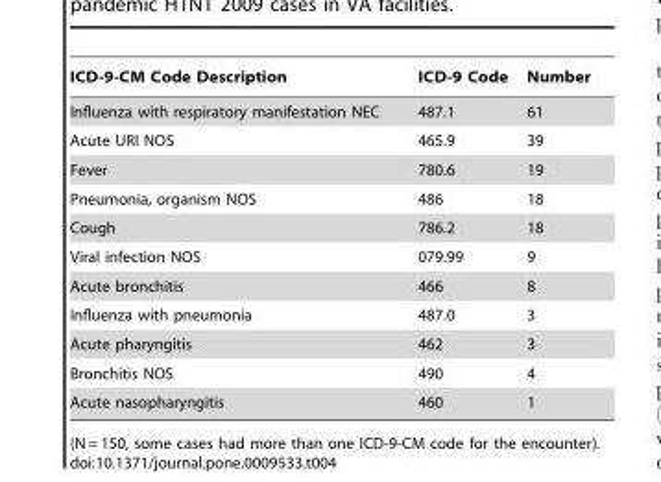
<table><thead><tr><td>ICD-9-CM Code Description</td><td>ICD-9 Code</td><td>Number</td></tr></thead><tbody><tr><td>Influenza with respiratory manifestation NEC</td><td>487.1</td><td>61</td></tr><tr><td>Acute URI NOS</td><td>465.9</td><td>39</td></tr><tr><td>Fever</td><td>780.6</td><td>19</td></tr><tr><td>Pneumonia, organism NOS</td><td>486</td><td>18</td></tr><tr><td>Cough</td><td>786.2</td><td>18</td></tr><tr><td>Viral infection NOS</td><td>079.99</td><td>9</td></tr><tr><td>Acute bronchitis</td><td>466</td><td>8</td></tr><tr><td>Influenza with pneumonia</td><td>487.0</td><td>3</td></tr><tr><td>Acute pharyngitis</td><td>462</td><td>3</td></tr><tr><td>Bronchitis NOS</td><td>490</td><td>4</td></tr><tr><td>Acute nasopharyngitis</td><td>460</td><td>1</td></tr></tbody></table>